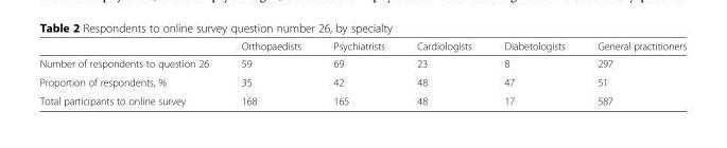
<table><thead><tr><td></td><td>Orthopaedists</td><td>Psychiatrists</td><td>Cardiologists</td><td>Diabetologists</td><td>General practitioners</td></tr></thead><tbody><tr><td>Number of respondents to question 26</td><td>59</td><td>69</td><td>23</td><td>8</td><td>297</td></tr><tr><td>Proportion of respondents, %</td><td>35</td><td>42</td><td>48</td><td>47</td><td>51</td></tr><tr><td>Total participants to online survey</td><td>168</td><td>165</td><td>48</td><td>17</td><td>587</td></tr></tbody></table>